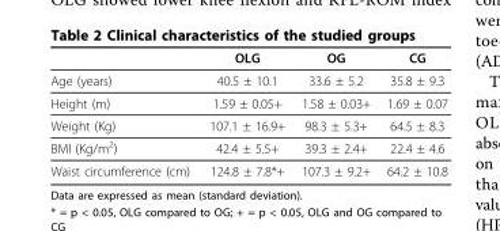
<table><thead><tr><td></td><td>OLG</td><td>OG</td><td>CG</td></tr></thead><tbody><tr><td>Age (years)</td><td>40.5 ± 10.1</td><td>33.6 ± 5.2</td><td>35.8 ± 9.3</td></tr><tr><td>Height (m)</td><td>1.59 ± 0.05+</td><td>1.58 ± 0.03+</td><td>1.69 ± 0.07</td></tr><tr><td>Weight (Kg)</td><td>107.1 ± 16.9+</td><td>98.3 ± 5.3+</td><td>64.5 ± 8.3</td></tr><tr><td>BMI (Kg/m<sup>2</sup>)</td><td>42.4 ± 5.5+</td><td>39.3 ± 2.4+</td><td>22.4 ± 4.6</td></tr><tr><td>Waist circumference (cm)</td><td>124.8 ± 7.8*+</td><td>107.3 ± 9.2+</td><td>64.2 ± 10.8</td></tr></tbody></table>